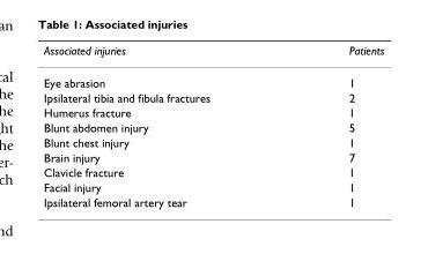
<table><thead><tr><td>Associated injuries</td><td>Patients</td></tr></thead><tbody><tr><td>Eye abrasion</td><td>1</td></tr><tr><td>Ipsilateral tibia and fibula fractures</td><td>2</td></tr><tr><td>Humerus fracture</td><td>1</td></tr><tr><td>Blunt abdomen injury</td><td>5</td></tr><tr><td>Blunt chest injury</td><td>1</td></tr><tr><td>Brain injury</td><td>7</td></tr><tr><td>Clavicle fracture</td><td>1</td></tr><tr><td>Facial injury</td><td>1</td></tr><tr><td>Ipsilateral femoral artery tear</td><td>1</td></tr></tbody></table>